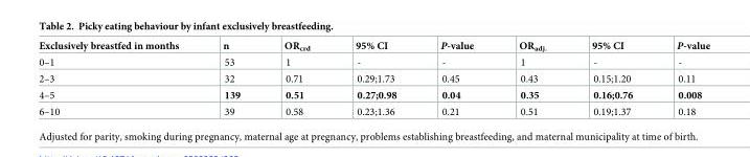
<table><thead><tr><td>Exclusively breastfed in months</td><td>n</td><td>OR<sub>crd</sub></td><td>95% CI</td><td>P-value</td><td>OR<sub>adj.</sub></td><td>95% CI</td><td>P-value</td></tr></thead><tbody><tr><td>0–1</td><td>53</td><td>1</td><td>-</td><td>-</td><td>1</td><td>-</td><td>-</td></tr><tr><td>2–3</td><td>32</td><td>0.71</td><td>0.29;1.73</td><td>0.45</td><td>0.43</td><td>0.15;1.20</td><td>0.11</td></tr><tr><td>4–5</td><td>139</td><td>0.51</td><td>0.27;0.98</td><td>0.04</td><td>0.35</td><td>0.16;0.76</td><td>0.008</td></tr><tr><td>6–10</td><td>39</td><td>0.58</td><td>0.23;1.36</td><td>0.21</td><td>0.51</td><td>0.19;1.37</td><td>0.18</td></tr></tbody></table>